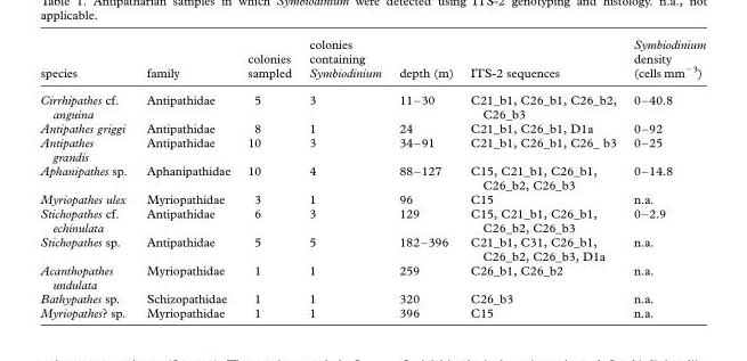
<table><thead><tr><td>species</td><td>family</td><td>colonies sampled</td><td>colonies containing Symbiodinium</td><td>depth (m)</td><td>ITS-2 sequences</td><td>Symbiodinium density (cells mm<sup>−3</sup>)</td></tr></thead><tbody><tr><td>Cirrhipathes cf. anguina</td><td>Antipathidae</td><td>5</td><td>3</td><td>11–30</td><td>C21_b1, C26_b1, C26_b2, C26_b3</td><td>0–40.8</td></tr><tr><td>Antipathes griggi</td><td>Antipathidae</td><td>8</td><td>1</td><td>24</td><td>C21_b1, C26_b1, D1a</td><td>0–92</td></tr><tr><td>Antipathes grandis</td><td>Antipathidae</td><td>10</td><td>3</td><td>34–91</td><td>C21_b1, C26_b1, C26_ b3</td><td>0–25</td></tr><tr><td>Aphanipathes sp.</td><td>Aphanipathidae</td><td>10</td><td>4</td><td>88–127</td><td>C15, C21_b1, C26_b1, C26_b2, C26_b3</td><td>0–14.8</td></tr><tr><td>Myriopathes ulex</td><td>Myriopathidae</td><td>3</td><td>1</td><td>96</td><td>C15</td><td>n.a.</td></tr><tr><td>Stichopathes cf. echinulata</td><td>Antipathidae</td><td>6</td><td>3</td><td>129</td><td>C15, C21_b1, C26_b1, C26_b2, C26_b3</td><td>0–2.9</td></tr><tr><td>Stichopathes sp.</td><td>Antipathidae</td><td>5</td><td>5</td><td>182–396</td><td>C21_b1, C31, C26_b1, C26_b2, C26_b3, D1a</td><td>n.a.</td></tr><tr><td>Acanthopathes undulata</td><td>Myriopathidae</td><td>1</td><td>1</td><td>259</td><td>C26_b1, C26_b2</td><td>n.a.</td></tr><tr><td>Bathypathes sp.</td><td>Schizopathidae</td><td>1</td><td>1</td><td>320</td><td>C26_b3</td><td>n.a.</td></tr><tr><td>Myriopathes? sp.</td><td>Myriopathidae</td><td>1</td><td>1</td><td>396</td><td>C15</td><td>n.a.</td></tr></tbody></table>